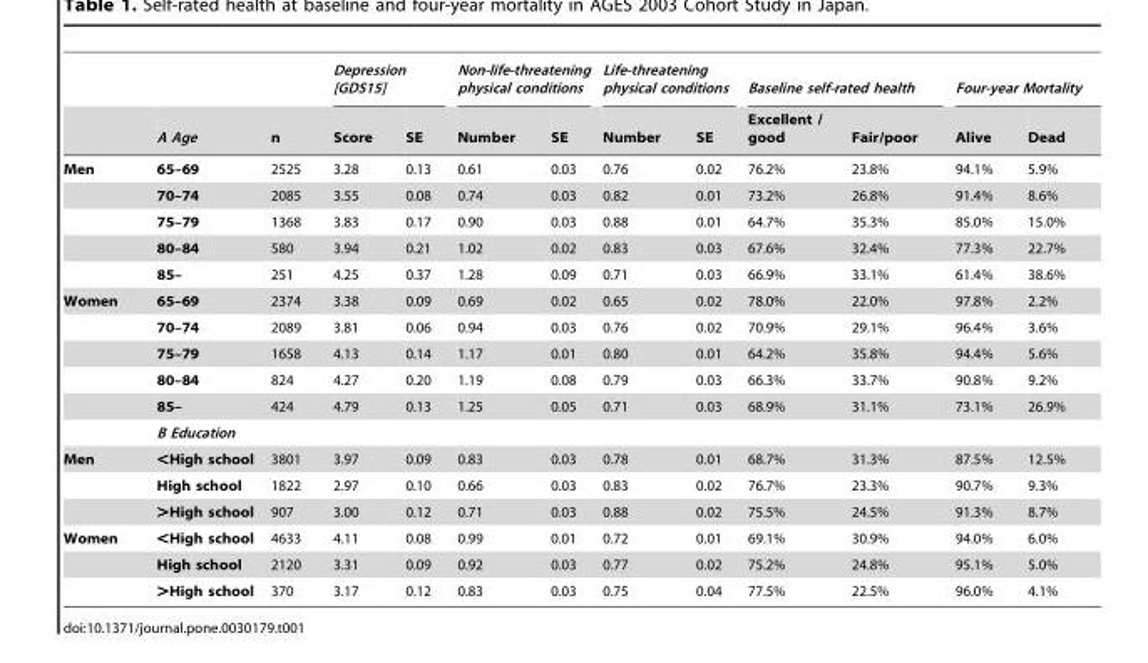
<table><thead><tr><td rowspan="2"></td><td rowspan="2">A Age</td><td rowspan="2">n</td><td colspan="2">Depression [GDS15]</td><td colspan="2">Non-life-threatening physical conditions</td><td colspan="2">Life-threatening physical conditions</td><td colspan="2">Baseline self-rated health</td><td colspan="2">Four-year Mortality</td></tr><tr><td>Score</td><td>SE</td><td>Number</td><td>SE</td><td>Number</td><td>SE</td><td>Excellent / good</td><td>Fair/poor</td><td>Alive</td><td>Dead</td></tr></thead><tbody><tr><td rowspan="5">Men</td><td>65–69</td><td>2525</td><td>3.28</td><td>0.13</td><td>0.61</td><td>0.03</td><td>0.76</td><td>0.02</td><td>76.2%</td><td>23.8%</td><td>94.1%</td><td>5.9%</td></tr><tr><td>70–74</td><td>2085</td><td>3.55</td><td>0.08</td><td>0.74</td><td>0.03</td><td>0.82</td><td>0.01</td><td>73.2%</td><td>26.8%</td><td>91.4%</td><td>8.6%</td></tr><tr><td>75–79</td><td>1368</td><td>3.83</td><td>0.17</td><td>0.90</td><td>0.03</td><td>0.88</td><td>0.01</td><td>64.7%</td><td>35.3%</td><td>85.0%</td><td>15.0%</td></tr><tr><td>80–84</td><td>580</td><td>3.94</td><td>0.21</td><td>1.02</td><td>0.02</td><td>0.83</td><td>0.03</td><td>67.6%</td><td>32.4%</td><td>77.3%</td><td>22.7%</td></tr><tr><td>85–</td><td>251</td><td>4.25</td><td>0.37</td><td>1.28</td><td>0.09</td><td>0.71</td><td>0.03</td><td>66.9%</td><td>33.1%</td><td>61.4%</td><td>38.6%</td></tr><tr><td rowspan="6">Women</td><td>65–69</td><td>2374</td><td>3.38</td><td>0.09</td><td>0.69</td><td>0.02</td><td>0.65</td><td>0.02</td><td>78.0%</td><td>22.0%</td><td>97.8%</td><td>2.2%</td></tr><tr><td>70–74</td><td>2089</td><td>3.81</td><td>0.06</td><td>0.94</td><td>0.03</td><td>0.76</td><td>0.02</td><td>70.9%</td><td>29.1%</td><td>96.4%</td><td>3.6%</td></tr><tr><td>75–79</td><td>1658</td><td>4.13</td><td>0.14</td><td>1.17</td><td>0.01</td><td>0.80</td><td>0.01</td><td>64.2%</td><td>35.8%</td><td>94.4%</td><td>5.6%</td></tr><tr><td>80–84</td><td>824</td><td>4.27</td><td>0.20</td><td>1.19</td><td>0.08</td><td>0.79</td><td>0.03</td><td>66.3%</td><td>33.7%</td><td>90.8%</td><td>9.2%</td></tr><tr><td>85–</td><td>424</td><td>4.79</td><td>0.13</td><td>1.25</td><td>0.05</td><td>0.71</td><td>0.03</td><td>68.9%</td><td>31.1%</td><td>73.1%</td><td>26.9%</td></tr><tr><td>B Education</td><td></td><td></td><td></td><td></td><td></td><td></td><td></td><td></td><td></td><td></td><td></td></tr><tr><td rowspan="3">Men</td><td>&lt;High school</td><td>3801</td><td>3.97</td><td>0.09</td><td>0.83</td><td>0.03</td><td>0.78</td><td>0.01</td><td>68.7%</td><td>31.3%</td><td>87.5%</td><td>12.5%</td></tr><tr><td>High school</td><td>1822</td><td>2.97</td><td>0.10</td><td>0.66</td><td>0.03</td><td>0.83</td><td>0.02</td><td>76.7%</td><td>23.3%</td><td>90.7%</td><td>9.3%</td></tr><tr><td>&gt;High school</td><td>907</td><td>3.00</td><td>0.12</td><td>0.71</td><td>0.03</td><td>0.88</td><td>0.02</td><td>75.5%</td><td>24.5%</td><td>91.3%</td><td>8.7%</td></tr><tr><td rowspan="3">Women</td><td>&lt;High school</td><td>4633</td><td>4.11</td><td>0.08</td><td>0.99</td><td>0.01</td><td>0.72</td><td>0.01</td><td>69.1%</td><td>30.9%</td><td>94.0%</td><td>6.0%</td></tr><tr><td>High school</td><td>2120</td><td>3.31</td><td>0.09</td><td>0.92</td><td>0.03</td><td>0.77</td><td>0.02</td><td>75.2%</td><td>24.8%</td><td>95.1%</td><td>5.0%</td></tr><tr><td>&gt;High school</td><td>370</td><td>3.17</td><td>0.12</td><td>0.83</td><td>0.03</td><td>0.75</td><td>0.04</td><td>77.5%</td><td>22.5%</td><td>96.0%</td><td>4.1%</td></tr></tbody></table>